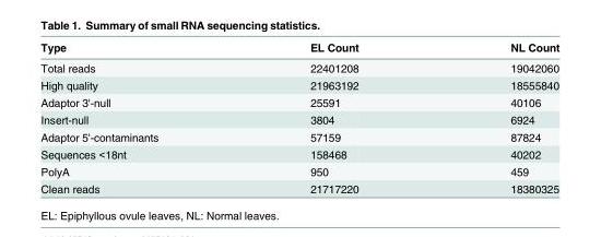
<table><thead><tr><td>Type</td><td>EL Count</td><td>NL Count</td></tr></thead><tbody><tr><td>Total reads</td><td>22401208</td><td>19042060</td></tr><tr><td>High quality</td><td>21963192</td><td>18555840</td></tr><tr><td>Adaptor 3&#x27;-null</td><td>25591</td><td>40106</td></tr><tr><td>Insert-null</td><td>3804</td><td>6924</td></tr><tr><td>Adaptor 5&#x27;-contaminants</td><td>57159</td><td>87824</td></tr><tr><td>Sequences &lt;18nt</td><td>158468</td><td>40202</td></tr><tr><td>PolyA</td><td>950</td><td>459</td></tr><tr><td>Clean reads</td><td>21717220</td><td>18380325</td></tr></tbody></table>